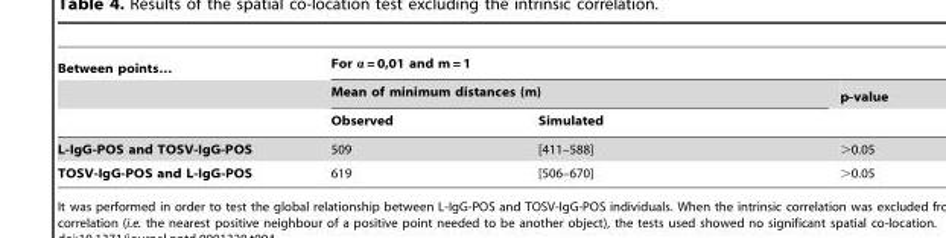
<table><thead><tr><td rowspan="3">Between points…</td><td colspan="3">For α = 0,01 and m = 1</td></tr><tr><td colspan="2">Mean of minimum distances (m)</td><td rowspan="2">p-value</td></tr><tr><td>Observed</td><td>Simulated</td></tr></thead><tbody><tr><td>L-IgG-POS and TOSV-IgG-POS</td><td>509</td><td>[411–588]</td><td>&gt;0.05</td></tr><tr><td>TOSV-IgG-POS and L-IgG-POS</td><td>619</td><td>[506–670]</td><td>&gt;0.05</td></tr></tbody></table>